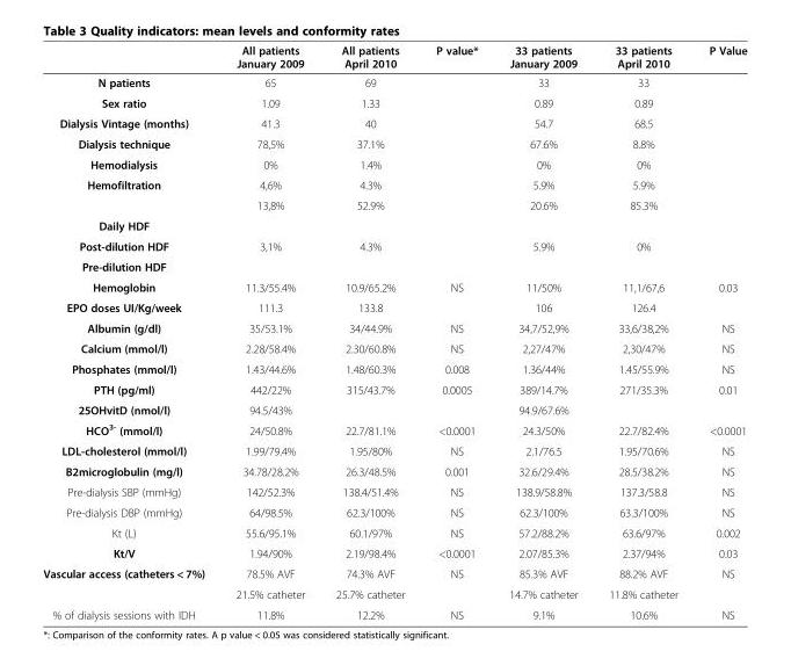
<table><thead><tr><td></td><td>All patients January 2009</td><td>All patients April 2010</td><td>P value*</td><td>33 patients January 2009</td><td>33 patients April 2010</td><td>P Value</td></tr></thead><tbody><tr><td>N patients</td><td>65</td><td>69</td><td></td><td>33</td><td>33</td><td></td></tr><tr><td>Sex ratio</td><td>1.09</td><td>1.33</td><td></td><td>0.89</td><td>0.89</td><td></td></tr><tr><td>Dialysis Vintage (months)</td><td>41.3</td><td>40</td><td></td><td>54.7</td><td>68.5</td><td></td></tr><tr><td>Dialysis technique</td><td>78,5%</td><td>37.1%</td><td></td><td>67.6%</td><td>8.8%</td><td></td></tr><tr><td>Hemodialysis</td><td>0%</td><td>1.4%</td><td></td><td>0%</td><td>0%</td><td></td></tr><tr><td rowspan="2">Hemofiltration</td><td>4,6%</td><td>4.3%</td><td></td><td>5.9%</td><td>5.9%</td><td></td></tr><tr><td>13,8%</td><td>52.9%</td><td></td><td>20.6%</td><td>85.3%</td><td></td></tr><tr><td colspan="7">Daily HDF</td></tr><tr><td>Post-dilution HDF</td><td>3,1%</td><td>4.3%</td><td></td><td>5.9%</td><td>0%</td><td></td></tr><tr><td colspan="7">Pre-dilution HDF</td></tr><tr><td>Hemoglobin</td><td>11.3/55.4%</td><td>10.9/65.2%</td><td>NS</td><td>11/50%</td><td>11,1/67,6</td><td>0.03</td></tr><tr><td>EPO doses UI/Kg/week</td><td>111.3</td><td>133.8</td><td></td><td>106</td><td>126.4</td><td></td></tr><tr><td>Albumin (g/dl)</td><td>35/53.1%</td><td>34/44.9%</td><td>NS</td><td>34,7/52,9%</td><td>33,6/38,2%</td><td>NS</td></tr><tr><td>Calcium (mmol/l)</td><td>2.28/58.4%</td><td>2.30/60.8%</td><td>NS</td><td>2,27/47%</td><td>2,30/47%</td><td>NS</td></tr><tr><td>Phosphates (mmol/l)</td><td>1.43/44.6%</td><td>1.48/60.3%</td><td>0.008</td><td>1.36/44%</td><td>1.45/55.9%</td><td>NS</td></tr><tr><td>PTH (pg/ml)</td><td>442/22%</td><td>315/43.7%</td><td>0.0005</td><td>389/14.7%</td><td>271/35.3%</td><td>0.01</td></tr><tr><td>25OHvitD (nmol/l)</td><td>94.5/43%</td><td></td><td></td><td>94.9/67.6%</td><td></td><td></td></tr><tr><td>HCO<sup>3-</sup> (mmol/l)</td><td>24/50.8%</td><td>22.7/81.1%</td><td>&lt;0.0001</td><td>24.3/50%</td><td>22.7/82.4%</td><td>&lt;0.0001</td></tr><tr><td>LDL-cholesterol (mmol/l)</td><td>1.99/79.4%</td><td>1.95/80%</td><td>NS</td><td>2.1/76.5</td><td>1.95/70.6%</td><td>NS</td></tr><tr><td>B2microglobulin (mg/l)</td><td>34.78/28.2%</td><td>26.3/48.5%</td><td>0.001</td><td>32.6/29.4%</td><td>28.5/38.2%</td><td>NS</td></tr><tr><td>Pre-dialysis SBP (mmHg)</td><td>142/52.3%</td><td>138.4/51.4%</td><td>NS</td><td>138.9/58.8%</td><td>137.3/58.8</td><td>NS</td></tr><tr><td>Pre-dialysis DBP (mmHg)</td><td>64/98.5%</td><td>62.3/100%</td><td>NS</td><td>62.3/100%</td><td>63.3/100%</td><td>NS</td></tr><tr><td>Kt (L)</td><td>55.6/95.1%</td><td>60.1/97%</td><td>NS</td><td>57.2/88.2%</td><td>63.6/97%</td><td>0.002</td></tr><tr><td>Kt/V</td><td>1.94/90%</td><td>2.19/98.4%</td><td>&lt;0.0001</td><td>2.07/85.3%</td><td>2.37/94%</td><td>0.03</td></tr><tr><td rowspan="2">Vascular access (catheters &lt; 7%)</td><td>78.5% AVF</td><td>74.3% AVF</td><td>NS</td><td>85.3% AVF</td><td>88.2% AVF</td><td>NS</td></tr><tr><td>21.5% catheter</td><td>25.7% catheter</td><td></td><td>14.7% catheter</td><td>11.8% catheter</td><td></td></tr><tr><td>% of dialysis sessions with IDH</td><td>11.8%</td><td>12.2%</td><td>NS</td><td>9.1%</td><td>10.6%</td><td>NS</td></tr></tbody></table>